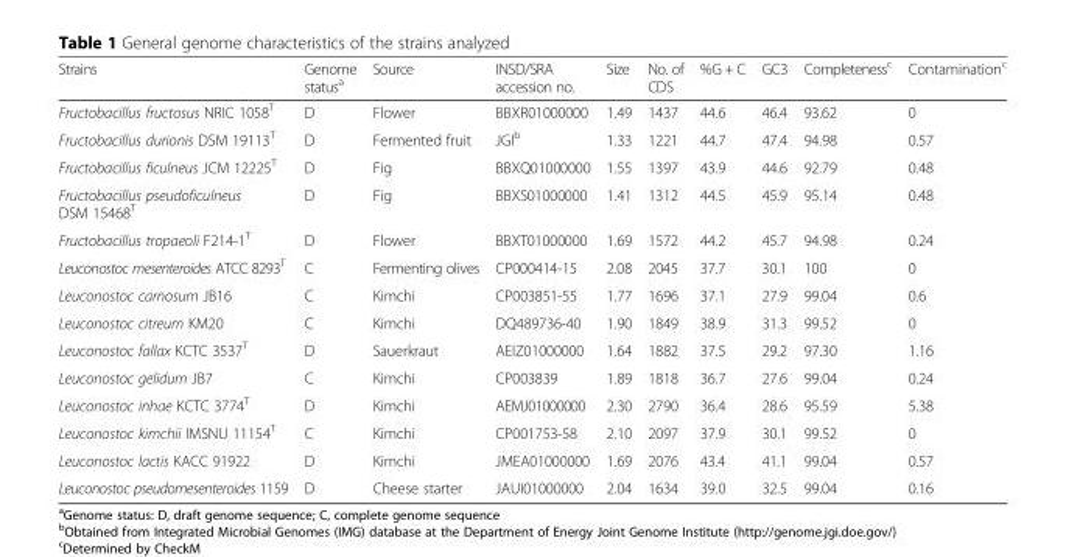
<table><thead><tr><td>Strains</td><td>Genome status<sup>a</sup></td><td>Source</td><td>INSD/SRA accession no.</td><td>Size</td><td>No. of CDS</td><td>%G + C</td><td>GC3</td><td>Completeness<sup>c</sup></td><td>Contamination<sup>c</sup></td></tr></thead><tbody><tr><td>Fructobacillus fructosus NRIC 1058<sup>T</sup></td><td>D</td><td>Flower</td><td>BBXR01000000</td><td>1.49</td><td>1437</td><td>44.6</td><td>46.4</td><td>93.62</td><td>0</td></tr><tr><td>Fructobacillus durionis DSM 19113<sup>T</sup></td><td>D</td><td>Fermented fruit</td><td>JGI<sup>b</sup></td><td>1.33</td><td>1221</td><td>44.7</td><td>47.4</td><td>94.98</td><td>0.57</td></tr><tr><td>Fructobacillus ficulneus JCM 12225<sup>T</sup></td><td>D</td><td>Fig</td><td>BBXQ01000000</td><td>1.55</td><td>1397</td><td>43.9</td><td>44.6</td><td>92.79</td><td>0.48</td></tr><tr><td>Fructobacillus pseudoficulneus DSM 15468<sup>T</sup></td><td>D</td><td>Fig</td><td>BBXS01000000</td><td>1.41</td><td>1312</td><td>44.5</td><td>45.9</td><td>95.14</td><td>0.48</td></tr><tr><td>Fructobacillus tropaeoli F214-1<sup>T</sup></td><td>D</td><td>Flower</td><td>BBXT01000000</td><td>1.69</td><td>1572</td><td>44.2</td><td>45.7</td><td>94.98</td><td>0.24</td></tr><tr><td>Leuconostoc mesenteroides ATCC 8293<sup>T</sup></td><td>C</td><td>Fermenting olives</td><td>CP000414-15</td><td>2.08</td><td>2045</td><td>37.7</td><td>30.1</td><td>100</td><td>0</td></tr><tr><td>Leuconostoc carnosum JB16</td><td>C</td><td>Kimchi</td><td>CP003851-55</td><td>1.77</td><td>1696</td><td>37.1</td><td>27.9</td><td>99.04</td><td>0.6</td></tr><tr><td>Leuconostoc citreum KM20</td><td>C</td><td>Kimchi</td><td>DQ489736-40</td><td>1.90</td><td>1849</td><td>38.9</td><td>31.3</td><td>99.52</td><td>0</td></tr><tr><td>Leuconostoc fallax KCTC 3537<sup>T</sup></td><td>D</td><td>Sauerkraut</td><td>AEIZ01000000</td><td>1.64</td><td>1882</td><td>37.5</td><td>29.2</td><td>97.30</td><td>1.16</td></tr><tr><td>Leuconostoc gelidum JB7</td><td>C</td><td>Kimchi</td><td>CP003839</td><td>1.89</td><td>1818</td><td>36.7</td><td>27.6</td><td>99.04</td><td>0.24</td></tr><tr><td>Leuconostoc inhae KCTC 3774<sup>T</sup></td><td>D</td><td>Kimchi</td><td>AEMJ01000000</td><td>2.30</td><td>2790</td><td>36.4</td><td>28.6</td><td>95.59</td><td>5.38</td></tr><tr><td>Leuconostoc kimchii IMSNU 11154<sup>T</sup></td><td>C</td><td>Kimchi</td><td>CP001753-58</td><td>2.10</td><td>2097</td><td>37.9</td><td>30.1</td><td>99.52</td><td>0</td></tr><tr><td>Leuconostoc lactis KACC 91922</td><td>D</td><td>Kimchi</td><td>JMEA01000000</td><td>1.69</td><td>2076</td><td>43.4</td><td>41.1</td><td>99.04</td><td>0.57</td></tr><tr><td>Leuconostoc pseudomesenteroides 1159</td><td>D</td><td>Cheese starter</td><td>JAUI01000000</td><td>2.04</td><td>1634</td><td>39.0</td><td>32.5</td><td>99.04</td><td>0.16</td></tr></tbody></table>